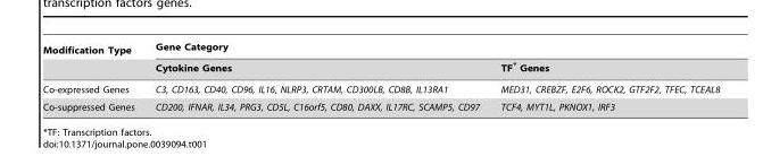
<table><thead><tr><td rowspan="2">Modification Type</td><td colspan="2">Gene Category</td></tr><tr><td>Cytokine Genes</td><td>TF* Genes</td></tr></thead><tbody><tr><td>Co-expressed Genes</td><td>C3, CD163, CD40, CD96, IL16, NLRP3, CRTAM, CD300LB, CD8B, IL13RA1</td><td>MED31, CREBZF, E2F6, ROCK2, GTF2F2, TFEC, TCEAL8</td></tr><tr><td>Co-suppressed Genes</td><td>CD200, IFNAR, IL34, PRG3, CD5L, C16orf5, CD80, DAXX, IL17RC, SCAMP5, CD97</td><td>TCF4, MYT1L, PKNOX1, IRF3</td></tr></tbody></table>